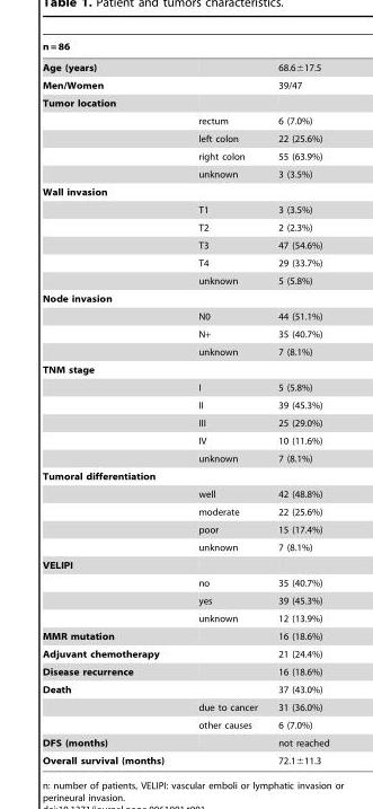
<table><thead><tr><td>n = 86</td><td></td><td></td></tr></thead><tbody><tr><td>Age (years)</td><td></td><td>68.6±17.5</td></tr><tr><td>Men/Women</td><td></td><td>39/47</td></tr><tr><td colspan="3">Tumor location</td></tr><tr><td></td><td>rectum</td><td>6 (7.0%)</td></tr><tr><td></td><td>left colon</td><td>22 (25.6%)</td></tr><tr><td></td><td>right colon</td><td>55 (63.9%)</td></tr><tr><td></td><td>unknown</td><td>3 (3.5%)</td></tr><tr><td colspan="3">Wall invasion</td></tr><tr><td></td><td>T1</td><td>3 (3.5%)</td></tr><tr><td></td><td>T2</td><td>2 (2.3%)</td></tr><tr><td></td><td>T3</td><td>47 (54.6%)</td></tr><tr><td></td><td>T4</td><td>29 (33.7%)</td></tr><tr><td></td><td>unknown</td><td>5 (5.8%)</td></tr><tr><td colspan="3">Node invasion</td></tr><tr><td></td><td>N0</td><td>44 (51.1%)</td></tr><tr><td></td><td>N+</td><td>35 (40.7%)</td></tr><tr><td></td><td>unknown</td><td>7 (8.1%)</td></tr><tr><td colspan="3">TNM stage</td></tr><tr><td></td><td>I</td><td>5 (5.8%)</td></tr><tr><td></td><td>II</td><td>39 (45.3%)</td></tr><tr><td></td><td>III</td><td>25 (29.0%)</td></tr><tr><td></td><td>IV</td><td>10 (11.6%)</td></tr><tr><td></td><td>unknown</td><td>7 (8.1%)</td></tr><tr><td colspan="3">Tumoral differentiation</td></tr><tr><td></td><td>well</td><td>42 (48.8%)</td></tr><tr><td></td><td>moderate</td><td>22 (25.6%)</td></tr><tr><td></td><td>poor</td><td>15 (17.4%)</td></tr><tr><td></td><td>unknown</td><td>7 (8.1%)</td></tr><tr><td colspan="3">VELIPI</td></tr><tr><td></td><td>no</td><td>35 (40.7%)</td></tr><tr><td></td><td>yes</td><td>39 (45.3%)</td></tr><tr><td></td><td>unknown</td><td>12 (13.9%)</td></tr><tr><td>MMR mutation</td><td></td><td>16 (18.6%)</td></tr><tr><td>Adjuvant chemotherapy</td><td></td><td>21 (24.4%)</td></tr><tr><td>Disease recurrence</td><td></td><td>16 (18.6%)</td></tr><tr><td rowspan="3">Death</td><td></td><td>37 (43.0%)</td></tr><tr><td>due to cancer</td><td>31 (36.0%)</td></tr><tr><td>other causes</td><td>6 (7.0%)</td></tr><tr><td>DFS (months)</td><td></td><td>not reached</td></tr><tr><td>Overall survival (months)</td><td></td><td>72.1±11.3</td></tr></tbody></table>